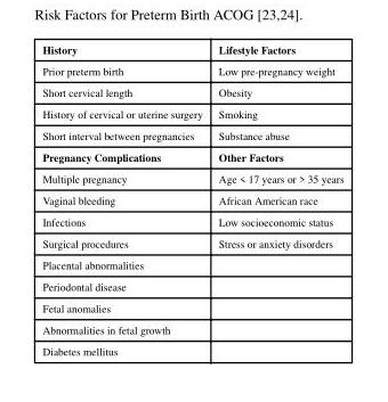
<table><thead><tr><td>History</td><td>Lifestyle Factors</td></tr></thead><tbody><tr><td>Prior preterm birth</td><td>Low pre-pregnancy weight</td></tr><tr><td>Short cervical length</td><td>Obesity</td></tr><tr><td>History of cervical or uterine surgery</td><td>Smoking</td></tr><tr><td>Short interval between pregnancies</td><td>Substance abuse</td></tr><tr><td>Pregnancy Complications</td><td>Other Factors</td></tr><tr><td>Multiple pregnancy</td><td>Age &lt; 17 years or &gt; 35 years</td></tr><tr><td>Vaginal bleeding</td><td>African American race</td></tr><tr><td>Infections</td><td>Low socioeconomic status</td></tr><tr><td>Surgical procedures</td><td>Stress or anxiety disorders</td></tr><tr><td colspan="2">Placental abnormalities</td></tr><tr><td colspan="2">Periodontal disease</td></tr><tr><td colspan="2">Fetal anomalies</td></tr><tr><td colspan="2">Abnormalities in fetal growth</td></tr><tr><td>Diabetes mellitus</td><td></td></tr></tbody></table>